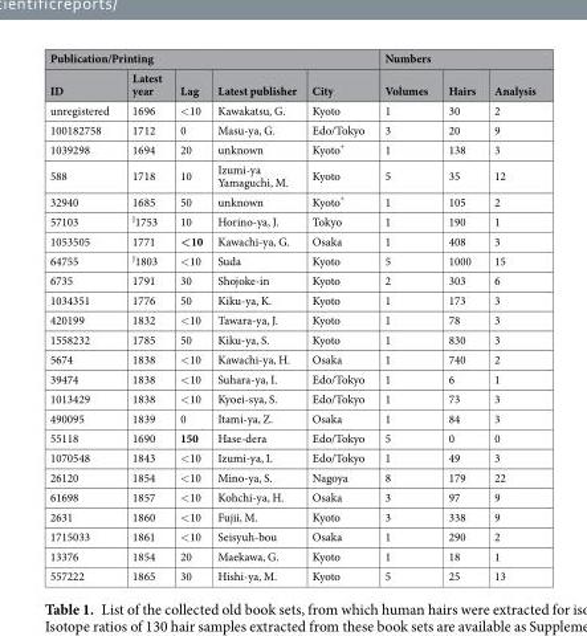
<table><thead><tr><td colspan="5">Publication/Printing</td><td colspan="3">Numbers</td></tr><tr><td>ID</td><td>Latest year</td><td>Lag</td><td>Latest publisher</td><td>City</td><td>Volumes</td><td>Hairs</td><td>Analysis</td></tr></thead><tbody><tr><td>unregistered</td><td>1696</td><td>&lt;10</td><td>Kawakatsu, G.</td><td>Kyoto</td><td>1</td><td>30</td><td>2</td></tr><tr><td>100182758</td><td>1712</td><td>0</td><td>Masu-ya, G.</td><td>Edo/Tokyo</td><td>3</td><td>20</td><td>9</td></tr><tr><td>1039298</td><td>1694</td><td>20</td><td>unknown</td><td>Kyoto*</td><td>1</td><td>138</td><td>3</td></tr><tr><td>588</td><td>1718</td><td>10</td><td>Izumi-ya Yamaguchi, M.</td><td>Kyoto</td><td>5</td><td>35</td><td>12</td></tr><tr><td>32940</td><td>1685</td><td>50</td><td>unknown</td><td>Kyoto*</td><td>1</td><td>105</td><td>2</td></tr><tr><td>57103</td><td><sup>J</sup>1753</td><td>10</td><td>Horino-ya, J.</td><td>Tokyo</td><td>1</td><td>190</td><td>1</td></tr><tr><td>1053505</td><td>1771</td><td>&lt;10</td><td>Kawachi-ya, G.</td><td>Osaka</td><td>1</td><td>408</td><td>3</td></tr><tr><td>64755</td><td><sup>J</sup>1803</td><td>&lt;10</td><td>Suda</td><td>Kyoto</td><td>5</td><td>1000</td><td>15</td></tr><tr><td>6735</td><td>1791</td><td>30</td><td>Shojoke-in</td><td>Kyoto</td><td>2</td><td>303</td><td>6</td></tr><tr><td>1034351</td><td>1776</td><td>50</td><td>Kiku-ya, K.</td><td>Kyoto</td><td>1</td><td>173</td><td>3</td></tr><tr><td>420199</td><td>1832</td><td>&lt;10</td><td>Tawara-ya, J.</td><td>Kyoto</td><td>1</td><td>78</td><td>3</td></tr><tr><td>1558232</td><td>1785</td><td>50</td><td>Kiku-ya, S.</td><td>Kyoto</td><td>1</td><td>830</td><td>3</td></tr><tr><td>5674</td><td>1838</td><td>&lt;10</td><td>Kawachi-ya, H.</td><td>Osaka</td><td>1</td><td>740</td><td>2</td></tr><tr><td>39474</td><td>1838</td><td>&lt;10</td><td>Suhara-ya, I.</td><td>Edo/Tokyo</td><td>1</td><td>6</td><td>1</td></tr><tr><td>1013429</td><td>1838</td><td>&lt;10</td><td>Kyoei-sya, S.</td><td>Edo/Tokyo</td><td>1</td><td>73</td><td>3</td></tr><tr><td>490095</td><td>1839</td><td>0</td><td>Itami-ya, Z.</td><td>Osaka</td><td>1</td><td>84</td><td>3</td></tr><tr><td>55118</td><td>1690</td><td>150</td><td>Hase-dera</td><td>Edo/Tokyo</td><td>5</td><td>0</td><td>0</td></tr><tr><td>1070548</td><td>1843</td><td>&lt;10</td><td>Izumi-ya, I.</td><td>Edo/Tokyo</td><td>1</td><td>49</td><td>3</td></tr><tr><td>26120</td><td>1854</td><td>&lt;10</td><td>Mino-ya, S.</td><td>Nagoya</td><td>8</td><td>179</td><td>22</td></tr><tr><td>61698</td><td>1857</td><td>&lt;10</td><td>Kohchi-ya, H.</td><td>Osaka</td><td>3</td><td>97</td><td>9</td></tr><tr><td>2631</td><td>1860</td><td>&lt;10</td><td>Fujii, M.</td><td>Kyoto</td><td>3</td><td>338</td><td>9</td></tr><tr><td>1715033</td><td>1861</td><td>&lt;10</td><td>Seisyuh-bou</td><td>Osaka</td><td>1</td><td>290</td><td>2</td></tr><tr><td>13376</td><td>1854</td><td>20</td><td>Maekawa, G.</td><td>Kyoto</td><td>1</td><td>18</td><td>1</td></tr><tr><td>557222</td><td>1865</td><td>30</td><td>Hishi-ya, M.</td><td>Kyoto</td><td>5</td><td>25</td><td>13</td></tr></tbody></table>